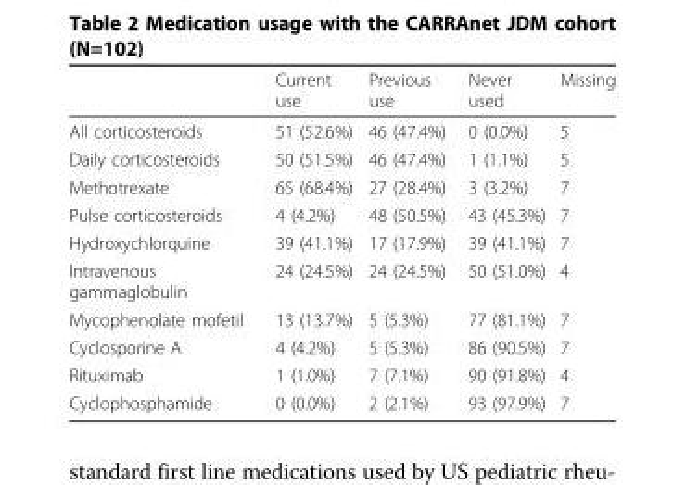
<table><thead><tr><td></td><td>Current use</td><td>Previous use</td><td>Never used</td><td>Missing</td></tr></thead><tbody><tr><td>All corticosteroids</td><td>51 (52.6%)</td><td>46 (47.4%)</td><td>0 (0.0%)</td><td>5</td></tr><tr><td>Daily corticosteroids</td><td>50 (51.5%)</td><td>46 (47.4%)</td><td>1 (1.1%)</td><td>5</td></tr><tr><td>Methotrexate</td><td>65 (68.4%)</td><td>27 (28.4%)</td><td>3 (3.2%)</td><td>7</td></tr><tr><td>Pulse corticosteroids</td><td>4 (4.2%)</td><td>48 (50.5%)</td><td>43 (45.3%)</td><td>7</td></tr><tr><td>Hydroxychlorquine</td><td>39 (41.1%)</td><td>17 (17.9%)</td><td>39 (41.1%)</td><td>7</td></tr><tr><td>Intravenous gammaglobulin</td><td>24 (24.5%)</td><td>24 (24.5%)</td><td>50 (51.0%)</td><td>4</td></tr><tr><td>Mycophenolate mofetil</td><td>13 (13.7%)</td><td>5 (5.3%)</td><td>77 (81.1%)</td><td>7</td></tr><tr><td>Cyclosporine A</td><td>4 (4.2%)</td><td>5 (5.3%)</td><td>86 (90.5%)</td><td>7</td></tr><tr><td>Rituximab</td><td>1 (1.0%)</td><td>7 (7.1%)</td><td>90 (91.8%)</td><td>4</td></tr><tr><td>Cyclophosphamide</td><td>0 (0.0%)</td><td>2 (2.1%)</td><td>93 (97.9%)</td><td>7</td></tr></tbody></table>